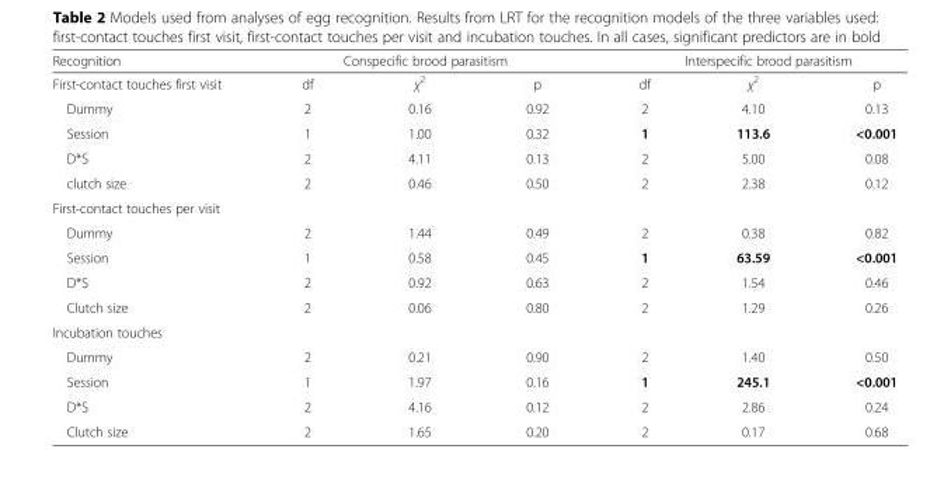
<table><thead><tr><td rowspan="2">Recognition First-contact touches first visit</td><td colspan="3">Conspecific brood parasitism</td><td colspan="3">Interspecific brood parasitism</td></tr><tr><td>df</td><td>χ<sup>2</sup></td><td>p</td><td>df</td><td>χ<sup>2</sup></td><td>p</td></tr></thead><tbody><tr><td>Dummy</td><td>2</td><td>0.16</td><td>0.92</td><td>2</td><td>4.10</td><td>0.13</td></tr><tr><td>Session</td><td>1</td><td>1.00</td><td>0.32</td><td>1</td><td>113.6</td><td>&lt;0.001</td></tr><tr><td>D*S</td><td>2</td><td>4.11</td><td>0.13</td><td>2</td><td>5.00</td><td>0.08</td></tr><tr><td>clutch size</td><td>2</td><td>0.46</td><td>0.50</td><td>2</td><td>2.38</td><td>0.12</td></tr><tr><td colspan="7">First-contact touches per visit</td></tr><tr><td>Dummy</td><td>2</td><td>1.44</td><td>0.49</td><td>2</td><td>0.38</td><td>0.82</td></tr><tr><td>Session</td><td>1</td><td>0.58</td><td>0.45</td><td>1</td><td>63.59</td><td>&lt;0.001</td></tr><tr><td>D*S</td><td>2</td><td>0.92</td><td>0.63</td><td>2</td><td>1.54</td><td>0.46</td></tr><tr><td>Clutch size</td><td>2</td><td>0.06</td><td>0.80</td><td>2</td><td>1.29</td><td>0.26</td></tr><tr><td colspan="7">Incubation touches</td></tr><tr><td>Dummy</td><td>2</td><td>0.21</td><td>0.90</td><td>2</td><td>1.40</td><td>0.50</td></tr><tr><td>Session</td><td>1</td><td>1.97</td><td>0.16</td><td>1</td><td>245.1</td><td>&lt;0.001</td></tr><tr><td>D*S</td><td>2</td><td>4.16</td><td>0.12</td><td>2</td><td>2.86</td><td>0.24</td></tr><tr><td>Clutch size</td><td>2</td><td>1.65</td><td>0.20</td><td>2</td><td>0.17</td><td>0.68</td></tr></tbody></table>